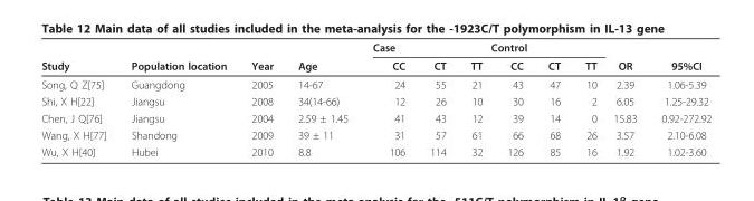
<table><thead><tr><td rowspan="2">Study</td><td rowspan="2">Population location</td><td rowspan="2">Year</td><td rowspan="2">Age</td><td colspan="3">Case</td><td colspan="3">Control</td><td rowspan="2">OR</td><td rowspan="2">95%CI</td></tr><tr><td>CC</td><td>CT</td><td>TT</td><td>CC</td><td>CT</td><td>TT</td></tr></thead><tbody><tr><td>Song, Q Z[75]</td><td>Guangdong</td><td>2005</td><td>14-67</td><td>24</td><td>55</td><td>21</td><td>43</td><td>47</td><td>10</td><td>2.39</td><td>1.06-5.39</td></tr><tr><td>Shi, X H[22]</td><td>Jiangsu</td><td>2008</td><td>34(14-66)</td><td>12</td><td>26</td><td>10</td><td>30</td><td>16</td><td>2</td><td>6.05</td><td>1.25-29.32</td></tr><tr><td>Chen, J Q[76]</td><td>Jiangsu</td><td>2004</td><td>2.59 ± 1.45</td><td>41</td><td>43</td><td>12</td><td>39</td><td>14</td><td>0</td><td>15.83</td><td>0.92-272.92</td></tr><tr><td>Wang, X H[77]</td><td>Shandong</td><td>2009</td><td>39 ± 11</td><td>31</td><td>57</td><td>61</td><td>66</td><td>68</td><td>26</td><td>3.57</td><td>2.10-6.08</td></tr><tr><td>Wu, X H[40]</td><td>Hubei</td><td>2010</td><td>8.8</td><td>106</td><td>114</td><td>32</td><td>126</td><td>85</td><td>16</td><td>1.92</td><td>1.02-3.60</td></tr></tbody></table>